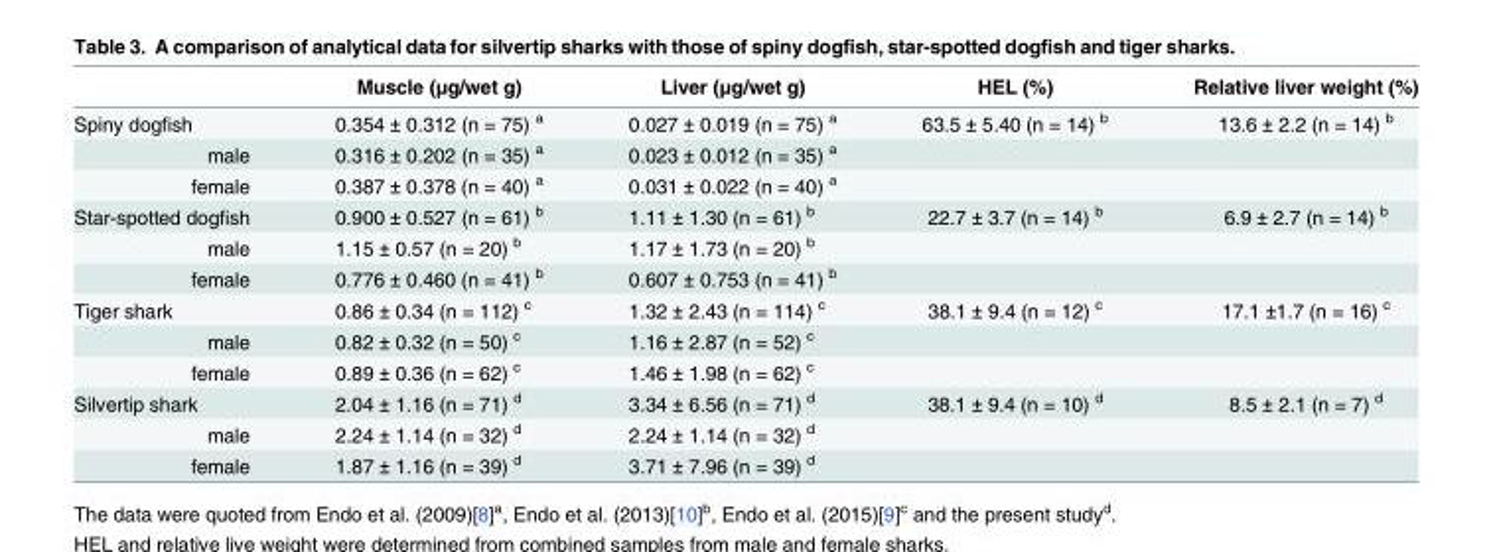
<table><thead><tr><td></td><td>Muscle (μg/wet g)</td><td>Liver (μg/wet g)</td><td>HEL (%)</td><td>Relative liver weight (%)</td></tr></thead><tbody><tr><td>Spiny dogfish</td><td>0.354 ± 0.312 (n = 75) <sup>a</sup></td><td>0.027 ± 0.019 (n = 75) <sup>a</sup></td><td>63.5 ± 5.40 (n = 14) <sup>b</sup></td><td>13.6 ± 2.2 (n = 14) <sup>b</sup></td></tr><tr><td>male</td><td>0.316 ± 0.202 (n = 35) <sup>a</sup></td><td>0.023 ± 0.012 (n = 35) <sup>a</sup></td><td></td><td></td></tr><tr><td>female</td><td>0.387 ± 0.378 (n = 40) <sup>a</sup></td><td>0.031 ± 0.022 (n = 40) <sup>a</sup></td><td></td><td></td></tr><tr><td>Star-spotted dogfish</td><td>0.900 ± 0.527 (n = 61) <sup>b</sup></td><td>1.11 ± 1.30 (n = 61) <sup>b</sup></td><td>22.7 ± 3.7 (n = 14) <sup>b</sup></td><td>6.9 ± 2.7 (n = 14) <sup>b</sup></td></tr><tr><td>male</td><td>1.15 ± 0.57 (n = 20) <sup>b</sup></td><td>1.17 ± 1.73 (n = 20) <sup>b</sup></td><td></td><td></td></tr><tr><td>female</td><td>0.776 ± 0.460 (n = 41) <sup>b</sup></td><td>0.607 ± 0.753 (n = 41) <sup>b</sup></td><td></td><td></td></tr><tr><td>Tiger shark</td><td>0.86 ± 0.34 (n = 112) <sup>c</sup></td><td>1.32 ± 2.43 (n = 114) <sup>c</sup></td><td>38.1 ± 9.4 (n = 12) <sup>c</sup></td><td>17.1 ±1.7 (n = 16) <sup>c</sup></td></tr><tr><td>male</td><td>0.82 ± 0.32 (n = 50) <sup>c</sup></td><td>1.16 ± 2.87 (n = 52) <sup>c</sup></td><td></td><td></td></tr><tr><td>female</td><td>0.89 ± 0.36 (n = 62) <sup>c</sup></td><td>1.46 ± 1.98 (n = 62) <sup>c</sup></td><td></td><td></td></tr><tr><td>Silvertip shark</td><td>2.04 ± 1.16 (n = 71) <sup>d</sup></td><td>3.34 ± 6.56 (n = 71) <sup>d</sup></td><td>38.1 ± 9.4 (n = 10) <sup>d</sup></td><td>8.5 ± 2.1 (n = 7) <sup>d</sup></td></tr><tr><td>male</td><td>2.24 ± 1.14 (n = 32) <sup>d</sup></td><td>2.24 ± 1.14 (n = 32) <sup>d</sup></td><td></td><td></td></tr><tr><td>female</td><td>1.87 ± 1.16 (n = 39) <sup>d</sup></td><td>3.71 ± 7.96 (n = 39) <sup>d</sup></td><td></td><td></td></tr></tbody></table>